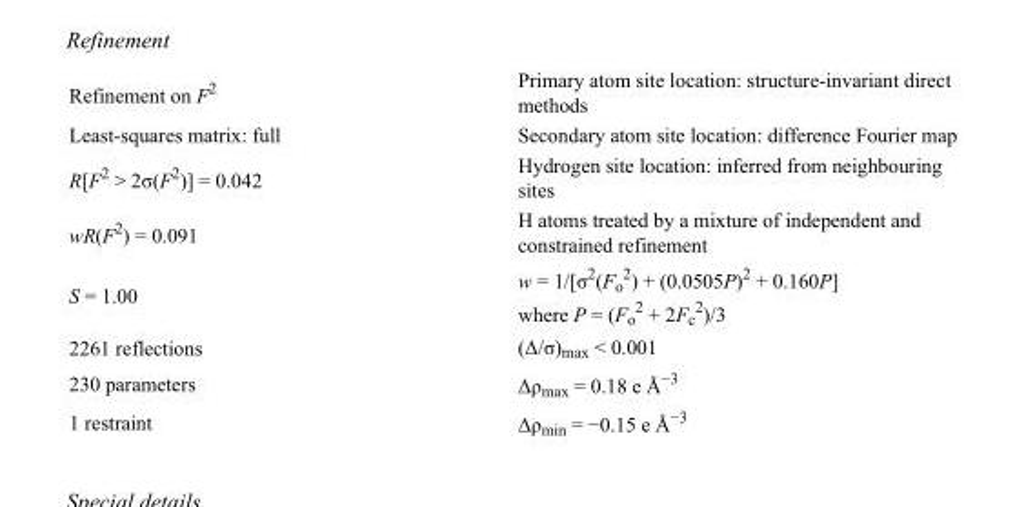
<table><tbody><tr><td>Refinement on F<sup>2</sup></td><td>Primary atom site location: structure-invariant direct methods</td></tr><tr><td>Least-squares matrix: full</td><td>Secondary atom site location: difference Fourier map</td></tr><tr><td>R[F<sup>2</sup> &gt; 2σ(F<sup>2</sup>)] = 0.042</td><td>Hydrogen site location: inferred from neighbouring sites</td></tr><tr><td>wR(F<sup>2</sup>) = 0.091</td><td>H atoms treated by a mixture of independent and constrained refinement</td></tr><tr><td>S = 1.00</td><td>w = 1/[σ<sup>2</sup>(F<sub>o</sub> <sup>2</sup>) + (0.0505P)<sup>2</sup> + 0.160P] where P = (F<sub>o</sub> <sup>2</sup> + 2F<sub>c</sub> <sup>2</sup>)/3</td></tr><tr><td>2261 reflections</td><td>(Δ/σ)<sub>max</sub> &lt; 0.001</td></tr><tr><td>230 parameters</td><td>Δρ<sub>max</sub> = 0.18 e Å<sup>−3</sup></td></tr><tr><td>1 restraint</td><td>Δρ<sub>min</sub> = −0.15 e Å<sup>−3</sup></td></tr></tbody></table>